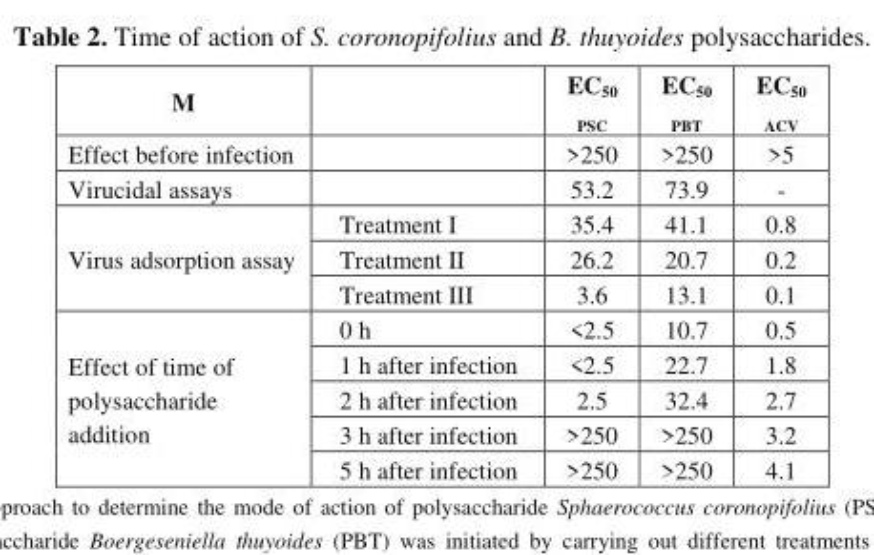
<table><thead><tr><td>M</td><td></td><td>EC<sub>50 PSC</sub></td><td>EC<sub>50 PBT</sub></td><td>EC<sub>50 ACV</sub></td></tr></thead><tbody><tr><td>Effect before infection</td><td></td><td>&gt;250</td><td>&gt;250</td><td>&gt;5</td></tr><tr><td>Virucidal assays</td><td></td><td>53.2</td><td>73.9</td><td>-</td></tr><tr><td rowspan="3">Virus adsorption assay</td><td>Treatment I</td><td>35.4</td><td>41.1</td><td>0.8</td></tr><tr><td>Treatment II</td><td>26.2</td><td>20.7</td><td>0.2</td></tr><tr><td>Treatment III</td><td>3.6</td><td>13.1</td><td>0.1</td></tr><tr><td rowspan="5">Effect of time of polysaccharide addition</td><td>0 h</td><td>&lt;2.5</td><td>10.7</td><td>0.5</td></tr><tr><td>1 h after infection</td><td>&lt;2.5</td><td>22.7</td><td>1.8</td></tr><tr><td>2 h after infection</td><td>2.5</td><td>32.4</td><td>2.7</td></tr><tr><td>3 h after infection</td><td>&gt;250</td><td>&gt;250</td><td>3.2</td></tr><tr><td>5 h after infection</td><td>&gt;250</td><td>&gt;250</td><td>4.1</td></tr></tbody></table>